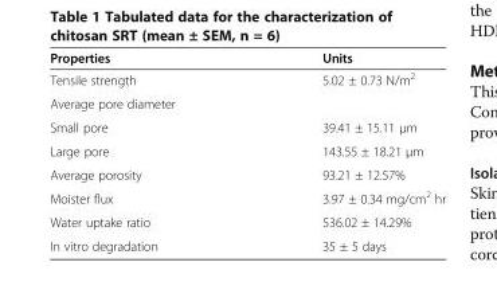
<table><thead><tr><td>Properties</td><td>Units</td></tr></thead><tbody><tr><td>Tensile strength</td><td>5.02 ± 0.73 N/m<sup>2</sup></td></tr><tr><td colspan="2">Average pore diameter</td></tr><tr><td>Small pore</td><td>39.41 ± 15.11 μm</td></tr><tr><td>Large pore</td><td>143.55 ± 18.21 μm</td></tr><tr><td>Average porosity</td><td>93.21 ± 12.57%</td></tr><tr><td>Moister flux</td><td>3.97 ± 0.34 mg/cm<sup>2</sup> hr</td></tr><tr><td>Water uptake ratio</td><td>536.02 ± 14.29%</td></tr><tr><td>In vitro degradation</td><td>35 ± 5 days</td></tr></tbody></table>